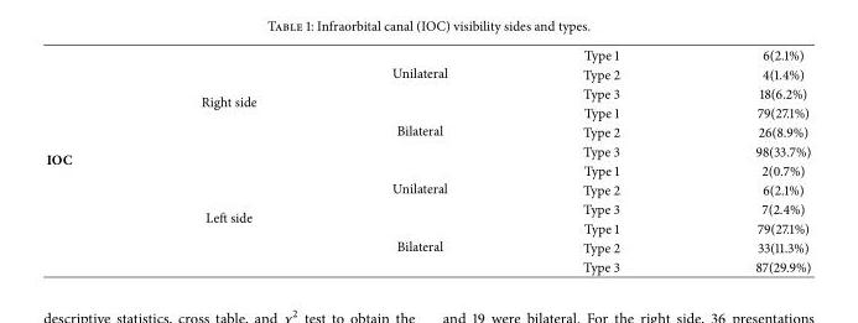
<table><tbody><tr><td rowspan="12">IOC</td><td rowspan="6">Right side</td><td rowspan="3">Unilateral</td><td>Type 1</td><td>6(2.1%)</td></tr><tr><td>Type 2</td><td>4(1.4%)</td></tr><tr><td>Type 3</td><td>18(6.2%)</td></tr><tr><td rowspan="3">Bilateral</td><td>Type 1</td><td>79(27.1%)</td></tr><tr><td>Type 2</td><td>26(8.9%)</td></tr><tr><td>Type 3</td><td>98(33.7%)</td></tr><tr><td rowspan="6">Left side</td><td rowspan="3">Unilateral</td><td>Type 1</td><td>2(0.7%)</td></tr><tr><td>Type 2</td><td>6(2.1%)</td></tr><tr><td>Type 3</td><td>7(2.4%)</td></tr><tr><td rowspan="3">Bilateral</td><td>Type 1</td><td>79(27.1%)</td></tr><tr><td>Type 2</td><td>33(11.3%)</td></tr><tr><td>Type 3</td><td>87(29.9%)</td></tr></tbody></table>